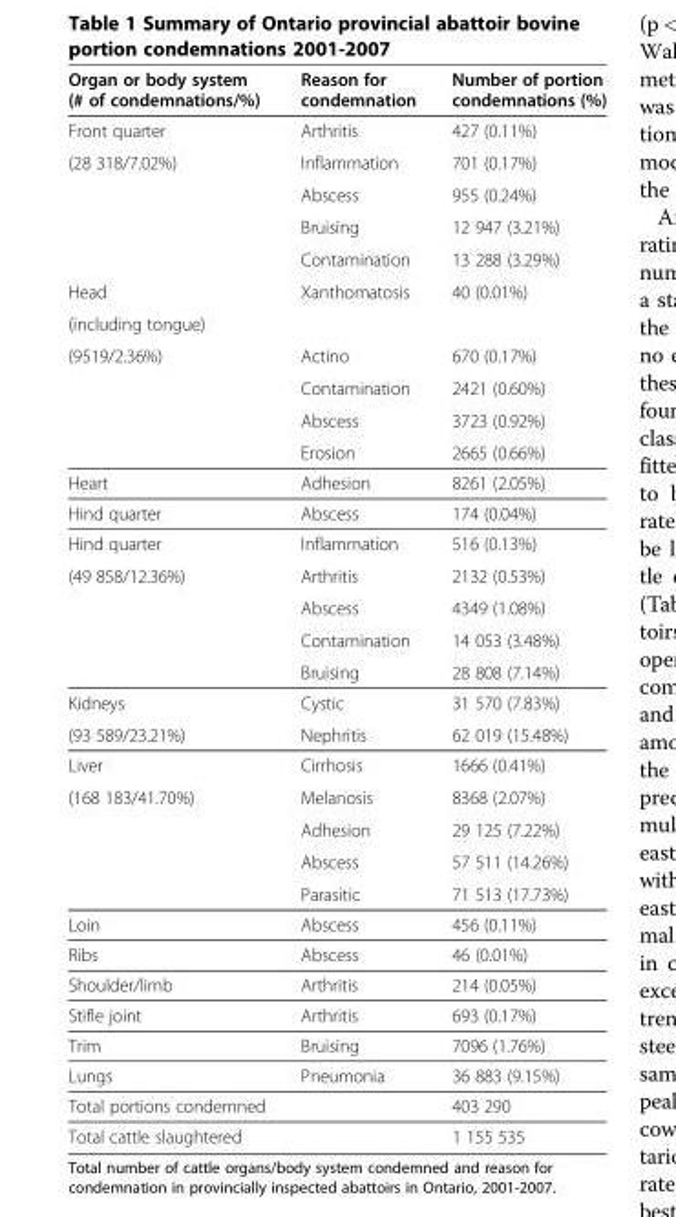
<table><thead><tr><td>Organ or body system (# of condemnations/%)</td><td>Reason for condemnation</td><td>Number of portion condemnations (%)</td></tr></thead><tbody><tr><td>Front quarter</td><td>Arthritis</td><td>427 (0.11%)</td></tr><tr><td rowspan="4">(28 318/7.02%)</td><td>Inflammation</td><td>701 (0.17%)</td></tr><tr><td>Abscess</td><td>955 (0.24%)</td></tr><tr><td>Bruising</td><td>12 947 (3.21%)</td></tr><tr><td>Contamination</td><td>13 288 (3.29%)</td></tr><tr><td>Head</td><td>Xanthomatosis</td><td>40 (0.01%)</td></tr><tr><td colspan="3">(including tongue)</td></tr><tr><td rowspan="4">(9519/2.36%)</td><td>Actino</td><td>670 (0.17%)</td></tr><tr><td>Contamination</td><td>2421 (0.60%)</td></tr><tr><td>Abscess</td><td>3723 (0.92%)</td></tr><tr><td>Erosion</td><td>2665 (0.66%)</td></tr><tr><td>Heart</td><td>Adhesion</td><td>8261 (2.05%)</td></tr><tr><td>Hind quarter</td><td>Abscess</td><td>174 (0.04%)</td></tr><tr><td>Hind quarter</td><td>Inflammation</td><td>516 (0.13%)</td></tr><tr><td rowspan="4">(49 858/12.36%)</td><td>Arthritis</td><td>2132 (0.53%)</td></tr><tr><td>Abscess</td><td>4349 (1.08%)</td></tr><tr><td>Contamination</td><td>14 053 (3.48%)</td></tr><tr><td>Bruising</td><td>28 808 (7.14%)</td></tr><tr><td>Kidneys</td><td>Cystic</td><td>31 570 (7.83%)</td></tr><tr><td>(93 589/23.21%)</td><td>Nephritis</td><td>62 019 (15.48%)</td></tr><tr><td>Liver</td><td>Cirrhosis</td><td>1666 (0.41%)</td></tr><tr><td rowspan="4">(168 183/41.70%)</td><td>Melanosis</td><td>8368 (2.07%)</td></tr><tr><td>Adhesion</td><td>29 125 (7.22%)</td></tr><tr><td>Abscess</td><td>57 511 (14.26%)</td></tr><tr><td>Parasitic</td><td>71 513 (17.73%)</td></tr><tr><td>Loin</td><td>Abscess</td><td>456 (0.11%)</td></tr><tr><td>Ribs</td><td>Abscess</td><td>46 (0.01%)</td></tr><tr><td>Shoulder/limb</td><td>Arthritis</td><td>214 (0.05%)</td></tr><tr><td>Stifle joint</td><td>Arthritis</td><td>693 (0.17%)</td></tr><tr><td>Trim</td><td>Bruising</td><td>7096 (1.76%)</td></tr><tr><td>Lungs</td><td>Pneumonia</td><td>36 883 (9.15%)</td></tr><tr><td>Total portions condemned</td><td></td><td>403 290</td></tr><tr><td>Total cattle slaughtered</td><td></td><td>1 155 535</td></tr></tbody></table>